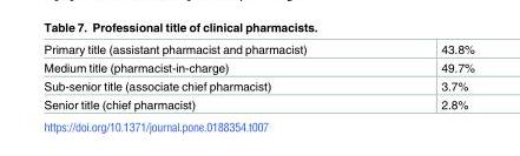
<table><tbody><tr><td>Primary title (assistant pharmacist and pharmacist)</td><td>43.8%</td></tr><tr><td>Medium title (pharmacist-in-charge)</td><td>49.7%</td></tr><tr><td>Sub-senior title (associate chief pharmacist)</td><td>3.7%</td></tr><tr><td>Senior title (chief pharmacist)</td><td>2.8%</td></tr></tbody></table>